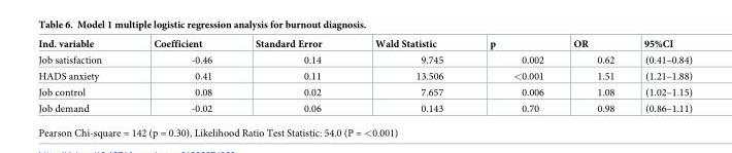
<table><thead><tr><td>Ind. variable</td><td>Coefficient</td><td>Standard Error</td><td>Wald Statistic</td><td>p</td><td>OR</td><td>95%CI</td></tr></thead><tbody><tr><td>Job satisfaction</td><td>-0.46</td><td>0.14</td><td>9.745</td><td>0.002</td><td>0.62</td><td>(0.41–0.84)</td></tr><tr><td>HADS anxiety</td><td>0.41</td><td>0.11</td><td>13.506</td><td>&lt;0.001</td><td>1.51</td><td>(1.21–1.88)</td></tr><tr><td>Job control</td><td>0.08</td><td>0.02</td><td>7.657</td><td>0.006</td><td>1.08</td><td>(1.02–1.15)</td></tr><tr><td>Job demand</td><td>-0.02</td><td>0.06</td><td>0.143</td><td>0.70</td><td>0.98</td><td>(0.86–1.11)</td></tr></tbody></table>